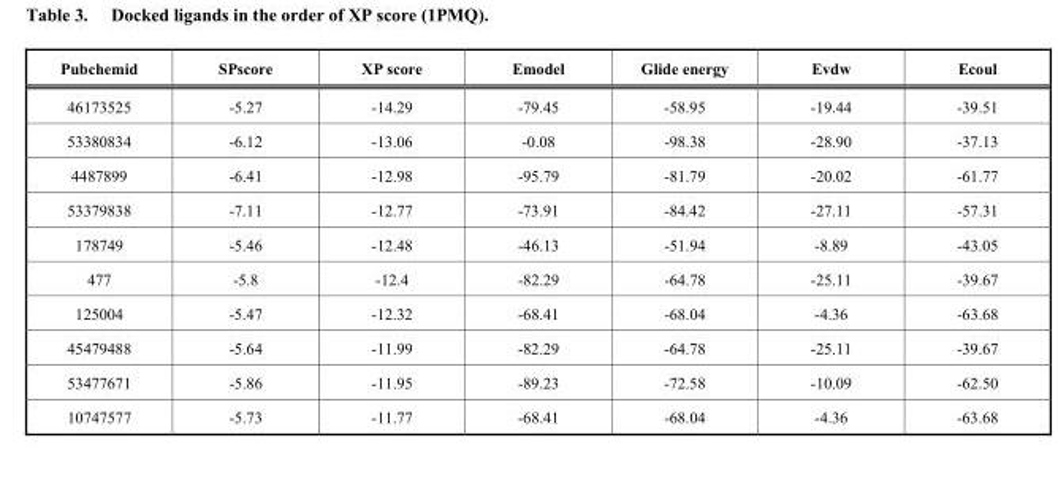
<table><thead><tr><td>Pubchemid</td><td>SPscore</td><td>XP score</td><td>Emodel</td><td>Glide energy</td><td>Evdw</td><td>Ecoul</td></tr></thead><tbody><tr><td>46173525</td><td>-5.27</td><td>-14.29</td><td>-79.45</td><td>-58.95</td><td>-19.44</td><td>-39.51</td></tr><tr><td>53380834</td><td>-6.12</td><td>-13.06</td><td>-0.08</td><td>-98.38</td><td>-28.90</td><td>-37.13</td></tr><tr><td>4487899</td><td>-6.41</td><td>-12.98</td><td>-95.79</td><td>-81.79</td><td>-20.02</td><td>-61.77</td></tr><tr><td>53379838</td><td>-7.11</td><td>-12.77</td><td>-73.91</td><td>-84.42</td><td>-27.11</td><td>-57.31</td></tr><tr><td>178749</td><td>-5.46</td><td>-12.48</td><td>-46.13</td><td>-51.94</td><td>-8.89</td><td>-43.05</td></tr><tr><td>477</td><td>-5.8</td><td>-12.4</td><td>-82.29</td><td>-64.78</td><td>-25.11</td><td>-39.67</td></tr><tr><td>125004</td><td>-5.47</td><td>-12.32</td><td>-68.41</td><td>-68.04</td><td>-4.36</td><td>-63.68</td></tr><tr><td>45479488</td><td>-5.64</td><td>-11.99</td><td>-82.29</td><td>-64.78</td><td>-25.11</td><td>-39.67</td></tr><tr><td>53477671</td><td>-5.86</td><td>-11.95</td><td>-89.23</td><td>-72.58</td><td>-10.09</td><td>-62.50</td></tr><tr><td>10747577</td><td>-5.73</td><td>-11.77</td><td>-68.41</td><td>-68.04</td><td>-4.36</td><td>-63.68</td></tr></tbody></table>